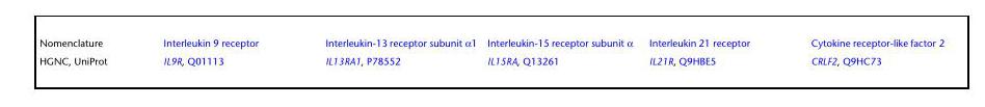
<table><tbody><tr><td>Nomenclature</td><td>Interleukin 9 receptor</td><td>Interleukin-13 receptor subunit α1</td><td>Interleukin-15 receptor subunit α</td><td>Interleukin 21 receptor</td><td>Cytokine receptor-like factor 2</td></tr><tr><td>HGNC, UniProt</td><td>IL9R, Q01113</td><td>IL13RA1, P78552</td><td>IL15RA, Q13261</td><td>IL21R, Q9HBE5</td><td>CRLF2, Q9HC73</td></tr></tbody></table>